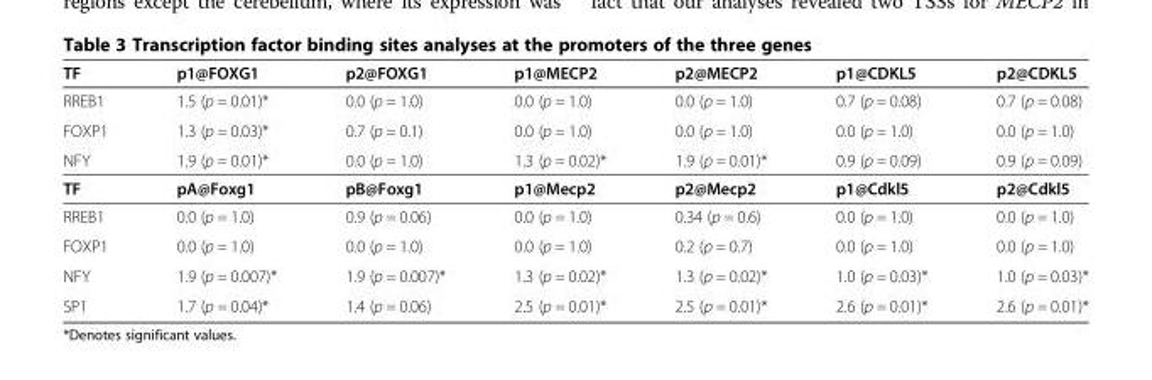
<table><thead><tr><td>TF</td><td>p1@FOXG1</td><td>p2@FOXG1</td><td>p1@MECP2</td><td>p2@MECP2</td><td>p1@CDKL5</td><td>p2@CDKL5</td></tr></thead><tbody><tr><td>RREB1</td><td>1.5 (p = 0.01)*</td><td>0.0 (p = 1.0)</td><td>0.0 (p = 1.0)</td><td>0.0 (p = 1.0)</td><td>0.7 (p = 0.08)</td><td>0.7 (p = 0.08)</td></tr><tr><td>FOXP1</td><td>1.3 (p = 0.03)*</td><td>0.7 (p = 0.1)</td><td>0.0 (p = 1.0)</td><td>0.0 (p = 1.0)</td><td>0.0 (p = 1.0)</td><td>0.0 (p = 1.0)</td></tr><tr><td>NFY</td><td>1.9 (p = 0.01)*</td><td>0.0 (p = 1.0)</td><td>1.3 (p = 0.02)*</td><td>1.9 (p = 0.01)*</td><td>0.9 (p = 0.09)</td><td>0.9 (p = 0.09)</td></tr><tr><td>TF</td><td>pA@Foxg1</td><td>pB@Foxg1</td><td>p1@Mecp2</td><td>p2@Mecp2</td><td>p1@Cdkl5</td><td>p2@Cdkl5</td></tr><tr><td>RREB1</td><td>0.0 (p = 1.0)</td><td>0.9 (p = 0.06)</td><td>0.0 (p = 1.0)</td><td>0.34 (p = 0.6)</td><td>0.0 (p = 1.0)</td><td>0.0 (p = 1.0)</td></tr><tr><td>FOXP1</td><td>0.0 (p = 1.0)</td><td>0.0 (p = 1.0)</td><td>0.0 (p = 1.0)</td><td>0.2 (p = 0.7)</td><td>0.0 (p = 1.0)</td><td>0.0 (p = 1.0)</td></tr><tr><td>NFY</td><td>1.9 (p = 0.007)*</td><td>1.9 (p = 0.007)*</td><td>1.3 (p = 0.02)*</td><td>1.3 (p = 0.02)*</td><td>1.0 (p = 0.03)*</td><td>1.0 (p = 0.03)*</td></tr><tr><td>SP1</td><td>1.7 (p = 0.04)*</td><td>1.4 (p = 0.06)</td><td>2.5 (p = 0.01)*</td><td>2.5 (p = 0.01)*</td><td>2.6 (p = 0.01)*</td><td>2.6 (p = 0.01)*</td></tr></tbody></table>